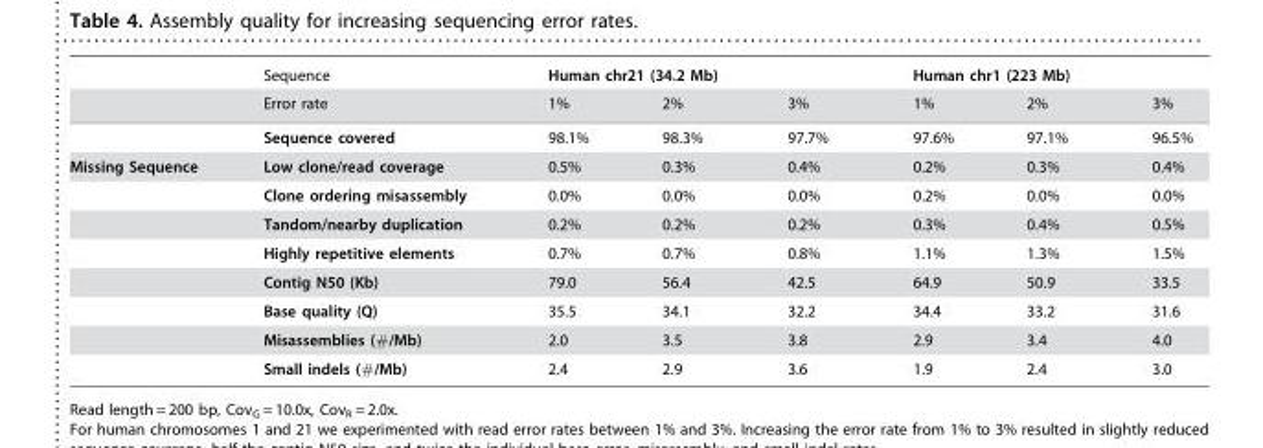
<table><thead><tr><td rowspan="2"></td><td rowspan="2">Sequence Error rate</td><td colspan="3">Human chr21 (34.2 Mb)</td><td colspan="3">Human chr1 (223 Mb)</td></tr><tr><td>1%</td><td>2%</td><td>3%</td><td>1%</td><td>2%</td><td>3%</td></tr></thead><tbody><tr><td></td><td>Sequence covered</td><td>98.1%</td><td>98.3%</td><td>97.7%</td><td>97.6%</td><td>97.1%</td><td>96.5%</td></tr><tr><td rowspan="8">Missing Sequence</td><td>Low clone/read coverage</td><td>0.5%</td><td>0.3%</td><td>0.4%</td><td>0.2%</td><td>0.3%</td><td>0.4%</td></tr><tr><td>Clone ordering misassembly</td><td>0.0%</td><td>0.0%</td><td>0.0%</td><td>0.2%</td><td>0.0%</td><td>0.0%</td></tr><tr><td>Tandom/nearby duplication</td><td>0.2%</td><td>0.2%</td><td>0.2%</td><td>0.3%</td><td>0.4%</td><td>0.5%</td></tr><tr><td>Highly repetitive elements</td><td>0.7%</td><td>0.7%</td><td>0.8%</td><td>1.1%</td><td>1.3%</td><td>1.5%</td></tr><tr><td>Contig N50 (Kb)</td><td>79.0</td><td>56.4</td><td>42.5</td><td>64.9</td><td>50.9</td><td>33.5</td></tr><tr><td>Base quality (Q)</td><td>35.5</td><td>34.1</td><td>32.2</td><td>34.4</td><td>33.2</td><td>31.6</td></tr><tr><td>Misassemblies (#/Mb)</td><td>2.0</td><td>3.5</td><td>3.8</td><td>2.9</td><td>3.4</td><td>4.0</td></tr><tr><td>Small indels (#/Mb)</td><td>2.4</td><td>2.9</td><td>3.6</td><td>1.9</td><td>2.4</td><td>3.0</td></tr></tbody></table>